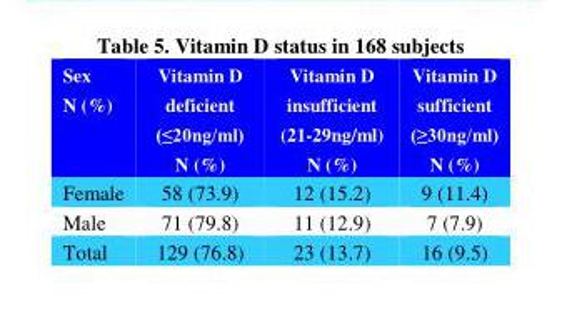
<table><thead><tr><td>Vitamin D sufficient (≥30ng/ml) N (%)</td><td>Vitamin D insufficient (21-29ng/ml) N (%)</td><td>Vitamin D deficient (≤20ng/ml) N (%)</td><td>Sex N (%)</td></tr></thead><tbody><tr><td>9 (11.4)</td><td>12 (15.2)</td><td>58 (73.9)</td><td>Female</td></tr><tr><td>7 (7.9)</td><td>11 (12.9)</td><td>71 (79.8)</td><td>Male</td></tr><tr><td>16 (9.5)</td><td>23 (13.7)</td><td>129 (76.8)</td><td>Total</td></tr></tbody></table>